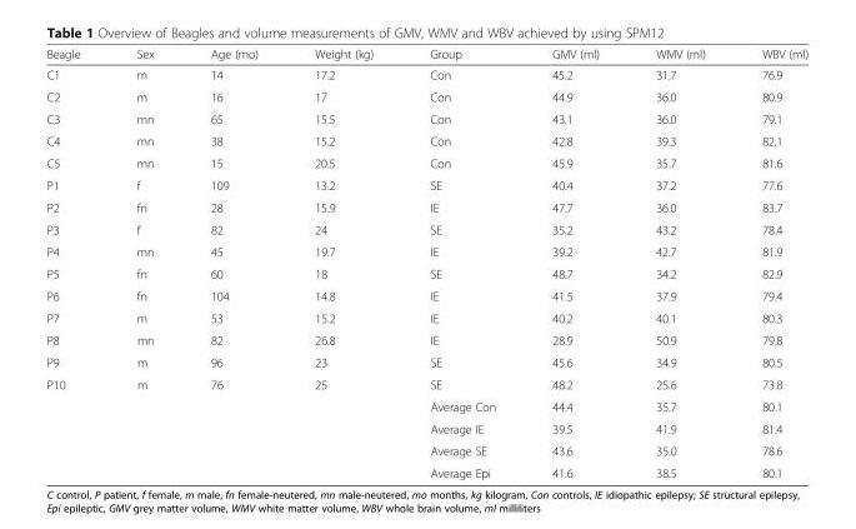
<table><thead><tr><td>Beagle</td><td>Sex</td><td>Age (mo)</td><td>Weight (kg)</td><td>Group</td><td>GMV (ml)</td><td>WMV (ml)</td><td>WBV (ml)</td></tr></thead><tbody><tr><td>C1</td><td>m</td><td>14</td><td>17.2</td><td>Con</td><td>45.2</td><td>31.7</td><td>76.9</td></tr><tr><td>C2</td><td>m</td><td>16</td><td>17</td><td>Con</td><td>44.9</td><td>36.0</td><td>80.9</td></tr><tr><td>C3</td><td>mn</td><td>65</td><td>15.5</td><td>Con</td><td>43.1</td><td>36.0</td><td>79.1</td></tr><tr><td>C4</td><td>mn</td><td>38</td><td>15.2</td><td>Con</td><td>42.8</td><td>39.3</td><td>82.1</td></tr><tr><td>C5</td><td>mn</td><td>15</td><td>20.5</td><td>Con</td><td>45.9</td><td>35.7</td><td>81.6</td></tr><tr><td>P1</td><td>f</td><td>109</td><td>13.2</td><td>SE</td><td>40.4</td><td>37.2</td><td>77.6</td></tr><tr><td>P2</td><td>fn</td><td>28</td><td>15.9</td><td>IE</td><td>47.7</td><td>36.0</td><td>83.7</td></tr><tr><td>P3</td><td>f</td><td>82</td><td>24</td><td>SE</td><td>35.2</td><td>43.2</td><td>78.4</td></tr><tr><td>P4</td><td>mn</td><td>45</td><td>19.7</td><td>IE</td><td>39.2</td><td>42.7</td><td>81.9</td></tr><tr><td>P5</td><td>fn</td><td>60</td><td>18</td><td>SE</td><td>48.7</td><td>34.2</td><td>82.9</td></tr><tr><td>P6</td><td>fn</td><td>104</td><td>14.8</td><td>IE</td><td>41.5</td><td>37.9</td><td>79.4</td></tr><tr><td>P7</td><td>m</td><td>53</td><td>15.2</td><td>IE</td><td>40.2</td><td>40.1</td><td>80.3</td></tr><tr><td>P8</td><td>mn</td><td>82</td><td>26.8</td><td>IE</td><td>28.9</td><td>50.9</td><td>79.8</td></tr><tr><td>P9</td><td>m</td><td>96</td><td>23</td><td>SE</td><td>45.6</td><td>34.9</td><td>80.5</td></tr><tr><td rowspan="5">P10</td><td>m</td><td>76</td><td>25</td><td>SE</td><td>48.2</td><td>25.6</td><td>73.8</td></tr><tr><td></td><td></td><td></td><td>Average Con</td><td>44.4</td><td>35.7</td><td>80.1</td></tr><tr><td></td><td></td><td></td><td>Average IE</td><td>39.5</td><td>41.9</td><td>81.4</td></tr><tr><td></td><td></td><td></td><td>Average SE</td><td>43.6</td><td>35.0</td><td>78.6</td></tr><tr><td></td><td></td><td></td><td>Average Epi</td><td>41.6</td><td>38.5</td><td>80.1</td></tr></tbody></table>